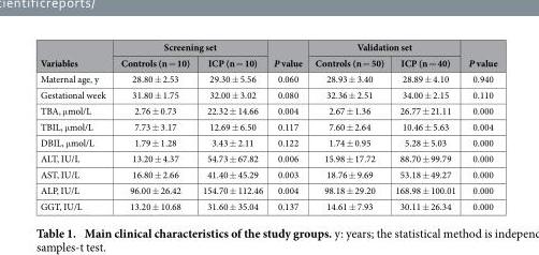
<table><thead><tr><td rowspan="2">Variables</td><td colspan="2">Screening set</td><td rowspan="2">P value</td><td colspan="2">Validation set</td><td rowspan="2">P value</td></tr><tr><td>Controls (n = 10)</td><td>ICP (n = 10)</td><td>Controls (n = 50)</td><td>ICP (n = 40)</td></tr></thead><tbody><tr><td>Maternal age, y</td><td>28.80 ± 2.53</td><td>29.30 ± 5.56</td><td>0.060</td><td>28.93 ± 3.40</td><td>28.89 ± 4.10</td><td>0.940</td></tr><tr><td>Gestational week</td><td>31.80 ± 1.75</td><td>32.00 ± 3.02</td><td>0.080</td><td>32.36 ± 2.51</td><td>34.00 ± 2.15</td><td>0.110</td></tr><tr><td>TBA, μ mol/L</td><td>2.76 ± 0.73</td><td>22.32 ± 14.66</td><td>0.004</td><td>2.67 ± 1.36</td><td>26.77 ± 21.11</td><td>0.000</td></tr><tr><td>TBIL, μ mol/L</td><td>7.73 ± 3.17</td><td>12.69 ± 6.50</td><td>0.117</td><td>7.60 ± 2.64</td><td>10.46 ± 5.63</td><td>0.004</td></tr><tr><td>DBIL, μ mol/L</td><td>1.79 ± 1.28</td><td>3.43 ± 2.11</td><td>0.122</td><td>1.74 ± 0.95</td><td>5.28 ± 5.03</td><td>0.000</td></tr><tr><td>ALT, IU/L</td><td>13.20 ± 4.37</td><td>54.73 ± 67.82</td><td>0.006</td><td>15.98 ± 17.72</td><td>88.70 ± 99.79</td><td>0.000</td></tr><tr><td>AST, IU/L</td><td>16.80 ± 2.66</td><td>41.40 ± 45.29</td><td>0.003</td><td>18.76 ± 9.69</td><td>53.18 ± 49.27</td><td>0.000</td></tr><tr><td>ALP, IU/L</td><td>96.00 ± 26.42</td><td>154.70 ± 112.46</td><td>0.004</td><td>98.18 ± 29.20</td><td>168.98 ± 100.01</td><td>0.000</td></tr><tr><td>GGT, IU/L</td><td>13.20 ± 10.68</td><td>31.60 ± 35.04</td><td>0.137</td><td>14.61 ± 7.93</td><td>30.11 ± 26.34</td><td>0.000</td></tr></tbody></table>